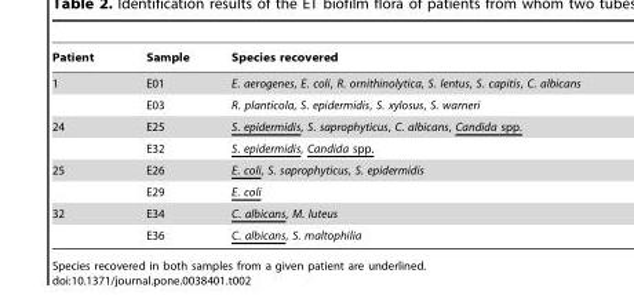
<table><thead><tr><td>Patient</td><td>Sample</td><td>Species recovered</td></tr></thead><tbody><tr><td rowspan="2">1</td><td>E01</td><td>E. aerogenes, E. coli, R. ornithinolytica, S. lentus, S. capitis, C. albicans</td></tr><tr><td>E03</td><td>R. planticola, S. epidermidis, S. xylosus, S. warneri</td></tr><tr><td rowspan="2">24</td><td>E25</td><td>S. epidermidis, S. saprophyticus, C. albicans, Candida spp.</td></tr><tr><td>E32</td><td>S. epidermidis, Candida spp.</td></tr><tr><td rowspan="2">25</td><td>E26</td><td>E. coli, S. saprophyticus, S. epidermidis</td></tr><tr><td>E29</td><td>E. coli</td></tr><tr><td rowspan="2">32</td><td>E34</td><td>C. albicans, M. luteus</td></tr><tr><td>E36</td><td>C. albicans, S. maltophilia</td></tr></tbody></table>